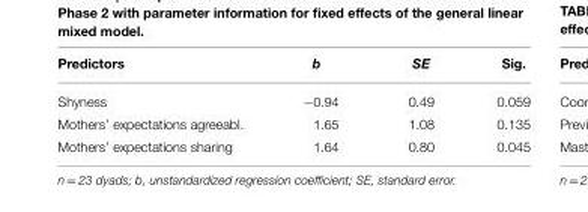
<table><thead><tr><td>Predictors</td><td>b</td><td>SE</td><td>Sig.</td></tr></thead><tbody><tr><td>Shyness</td><td>−0.94</td><td>0.49</td><td>0.059</td></tr><tr><td>Mothers’ expectations agreeabl.</td><td>1.65</td><td>1.08</td><td>0.135</td></tr><tr><td>Mothers’ expectations sharing</td><td>1.64</td><td>0.80</td><td>0.045</td></tr></tbody></table>